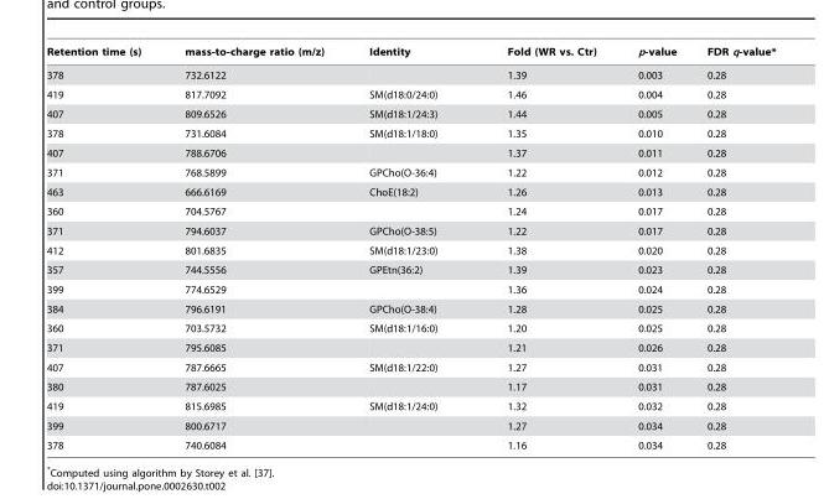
<table><thead><tr><td>Retention time (s)</td><td>mass-to-charge ratio (m/z)</td><td>Identity</td><td>Fold (WR vs. Ctr)</td><td>p-value</td><td>FDR q-value*</td></tr></thead><tbody><tr><td>378</td><td>732.6122</td><td></td><td>1.39</td><td>0.003</td><td>0.28</td></tr><tr><td>419</td><td>817.7092</td><td>SM(d18:0/24:0)</td><td>1.46</td><td>0.004</td><td>0.28</td></tr><tr><td>407</td><td>809.6526</td><td>SM(d18:1/24:3)</td><td>1.44</td><td>0.005</td><td>0.28</td></tr><tr><td>378</td><td>731.6084</td><td>SM(d18:1/18:0)</td><td>1.35</td><td>0.010</td><td>0.28</td></tr><tr><td>407</td><td>788.6706</td><td></td><td>1.37</td><td>0.011</td><td>0.28</td></tr><tr><td>371</td><td>768.5899</td><td>GPCho(O-36:4)</td><td>1.22</td><td>0.012</td><td>0.28</td></tr><tr><td>463</td><td>666.6169</td><td>ChoE(18:2)</td><td>1.26</td><td>0.013</td><td>0.28</td></tr><tr><td>360</td><td>704.5767</td><td></td><td>1.24</td><td>0.017</td><td>0.28</td></tr><tr><td>371</td><td>794.6037</td><td>GPCho(O-38:5)</td><td>1.22</td><td>0.017</td><td>0.28</td></tr><tr><td>412</td><td>801.6835</td><td>SM(d18:1/23:0)</td><td>1.38</td><td>0.020</td><td>0.28</td></tr><tr><td>357</td><td>744.5556</td><td>GPEtn(36:2)</td><td>1.39</td><td>0.023</td><td>0.28</td></tr><tr><td>399</td><td>774.6529</td><td></td><td>1.36</td><td>0.024</td><td>0.28</td></tr><tr><td>384</td><td>796.6191</td><td>GPCho(O-38:4)</td><td>1.28</td><td>0.025</td><td>0.28</td></tr><tr><td>360</td><td>703.5732</td><td>SM(d18:1/16:0)</td><td>1.20</td><td>0.025</td><td>0.28</td></tr><tr><td>371</td><td>795.6085</td><td></td><td>1.21</td><td>0.026</td><td>0.28</td></tr><tr><td>407</td><td>787.6665</td><td>SM(d18:1/22:0)</td><td>1.27</td><td>0.031</td><td>0.28</td></tr><tr><td>380</td><td>787.6025</td><td></td><td>1.17</td><td>0.031</td><td>0.28</td></tr><tr><td>419</td><td>815.6985</td><td>SM(d18:1/24:0)</td><td>1.32</td><td>0.032</td><td>0.28</td></tr><tr><td>399</td><td>800.6717</td><td></td><td>1.27</td><td>0.034</td><td>0.28</td></tr><tr><td>378</td><td>740.6084</td><td></td><td>1.16</td><td>0.034</td><td>0.28</td></tr></tbody></table>